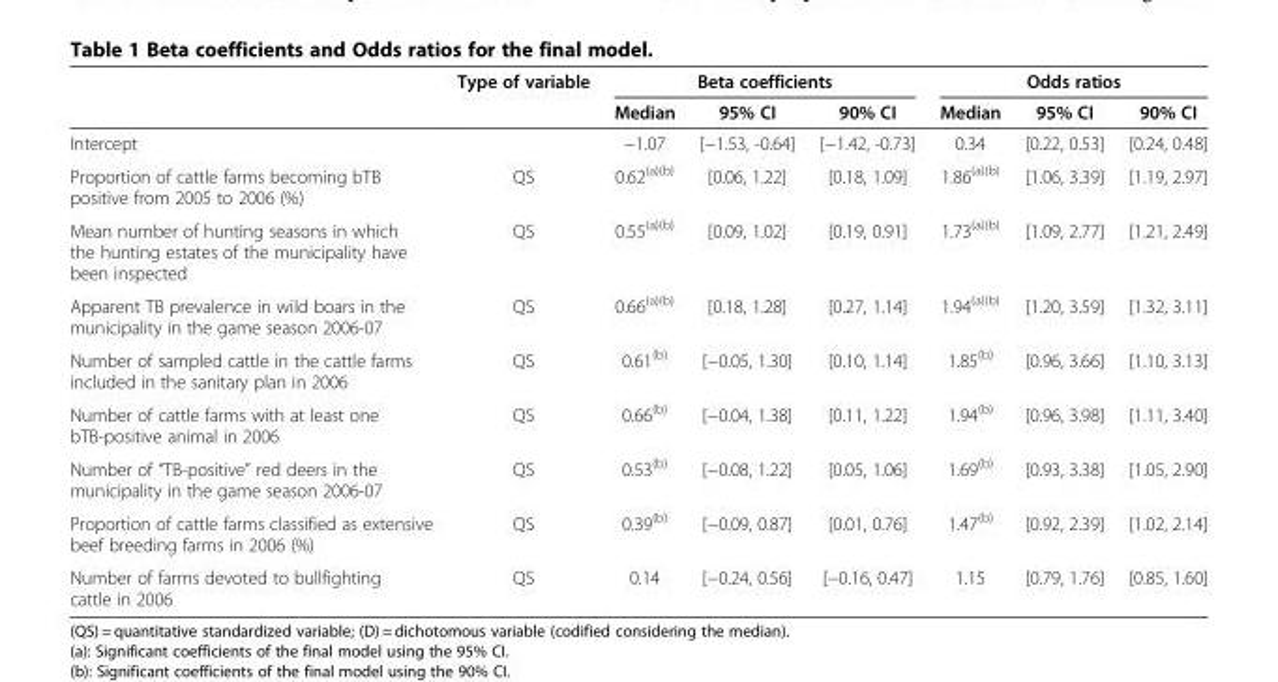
<table><thead><tr><td rowspan="2"></td><td rowspan="2">Type of variable</td><td colspan="3">Beta coefficients</td><td colspan="3">Odds ratios</td></tr><tr><td>Median</td><td>95% CI</td><td>90% CI</td><td>Median</td><td>95% CI</td><td>90% CI</td></tr></thead><tbody><tr><td>Intercept</td><td></td><td>−1.07</td><td>[−1.53, -0.64]</td><td>[−1.42, -0.73]</td><td>0.34</td><td>[0.22, 0.53]</td><td>[0.24, 0.48]</td></tr><tr><td>Proportion of cattle farms becoming bTB positive from 2005 to 2006 (%)</td><td>QS</td><td>0.62<sup>(a)(b)</sup></td><td>[0.06, 1.22]</td><td>[0.18, 1.09]</td><td>1.86<sup>(a)(b)</sup></td><td>[1.06, 3.39]</td><td>[1.19, 2.97]</td></tr><tr><td>Mean number of hunting seasons in which the hunting estates of the municipality have been inspected</td><td>QS</td><td>0.55<sup>(a)(b)</sup></td><td>[0.09, 1.02]</td><td>[0.19, 0.91]</td><td>1.73<sup>(a)(b)</sup></td><td>[1.09, 2.77]</td><td>[1.21, 2.49]</td></tr><tr><td>Apparent TB prevalence in wild boars in the municipality in the game season 2006-07</td><td>QS</td><td>0.66<sup>(a)(b)</sup></td><td>[0.18, 1.28]</td><td>[0.27, 1.14]</td><td>1.94<sup>(a)(b)</sup></td><td>[1.20, 3.59]</td><td>[1.32, 3.11]</td></tr><tr><td>Number of sampled cattle in the cattle farms included in the sanitary plan in 2006</td><td>QS</td><td>0.61<sup>(b)</sup></td><td>[−0.05, 1.30]</td><td>[0.10, 1.14]</td><td>1.85<sup>(b)</sup></td><td>[0.96, 3.66]</td><td>[1.10, 3.13]</td></tr><tr><td>Number of cattle farms with at least one bTB-positive animal in 2006</td><td>QS</td><td>0.66<sup>(b)</sup></td><td>[−0.04, 1.38]</td><td>[0.11, 1.22]</td><td>1.94<sup>(b)</sup></td><td>[0.96, 3.98]</td><td>[1.11, 3.40]</td></tr><tr><td>Number of “TB-positive” red deers in the municipality in the game season 2006-07</td><td>QS</td><td>0.53<sup>(b)</sup></td><td>[−0.08, 1.22]</td><td>[0.05, 1.06]</td><td>1.69<sup>(b)</sup></td><td>[0.93, 3.38]</td><td>[1.05, 2.90]</td></tr><tr><td>Proportion of cattle farms classified as extensive beef breeding farms in 2006 (%)</td><td>QS</td><td>0.39<sup>(b)</sup></td><td>[−0.09, 0.87]</td><td>[0.01, 0.76]</td><td>1.47<sup>(b)</sup></td><td>[0.92, 2.39]</td><td>[1.02, 2.14]</td></tr><tr><td>Number of farms devoted to bullfighting cattle in 2006</td><td>QS</td><td>0.14</td><td>[−0.24, 0.56]</td><td>[−0.16, 0.47]</td><td>1.15</td><td>[0.79, 1.76]</td><td>[0.85, 1.60]</td></tr></tbody></table>